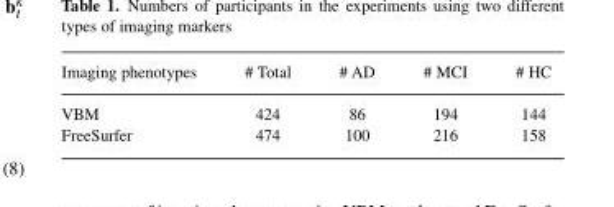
<table><thead><tr><td>Imaging phenotypes</td><td># Total</td><td># AD</td><td># MCI</td><td># HC</td></tr></thead><tbody><tr><td>VBM</td><td>424</td><td>86</td><td>194</td><td>144</td></tr><tr><td>FreeSurfer</td><td>474</td><td>100</td><td>216</td><td>158</td></tr></tbody></table>